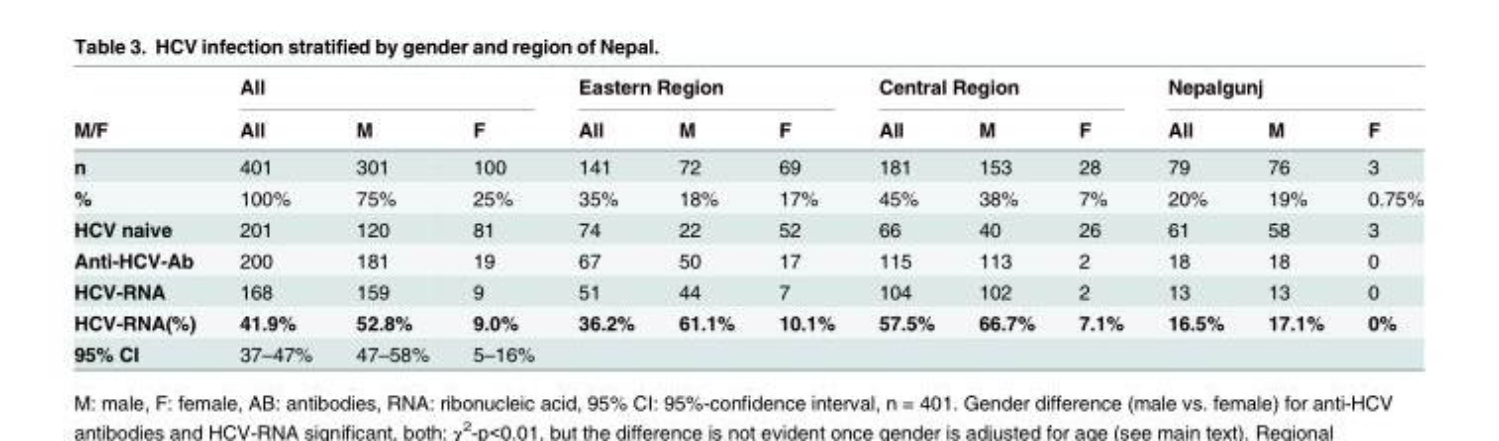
<table><thead><tr><td rowspan="2">M/F</td><td colspan="3">All</td><td colspan="3">Eastern Region</td><td colspan="3">Central Region</td><td colspan="3">Nepalgunj</td></tr><tr><td>All</td><td>M</td><td>F</td><td>All</td><td>M</td><td>F</td><td>All</td><td>M</td><td>F</td><td>All</td><td>M</td><td>F</td></tr></thead><tbody><tr><td>n</td><td>401</td><td>301</td><td>100</td><td>141</td><td>72</td><td>69</td><td>181</td><td>153</td><td>28</td><td>79</td><td>76</td><td>3</td></tr><tr><td>%</td><td>100%</td><td>75%</td><td>25%</td><td>35%</td><td>18%</td><td>17%</td><td>45%</td><td>38%</td><td>7%</td><td>20%</td><td>19%</td><td>0.75%</td></tr><tr><td>HCV naive</td><td>201</td><td>120</td><td>81</td><td>74</td><td>22</td><td>52</td><td>66</td><td>40</td><td>26</td><td>61</td><td>58</td><td>3</td></tr><tr><td>Anti-HCV-Ab</td><td>200</td><td>181</td><td>19</td><td>67</td><td>50</td><td>17</td><td>115</td><td>113</td><td>2</td><td>18</td><td>18</td><td>0</td></tr><tr><td>HCV-RNA</td><td>168</td><td>159</td><td>9</td><td>51</td><td>44</td><td>7</td><td>104</td><td>102</td><td>2</td><td>13</td><td>13</td><td>0</td></tr><tr><td>HCV-RNA(%)</td><td>41.9%</td><td>52.8%</td><td>9.0%</td><td>36.2%</td><td>61.1%</td><td>10.1%</td><td>57.5%</td><td>66.7%</td><td>7.1%</td><td>16.5%</td><td>17.1%</td><td>0%</td></tr><tr><td>95% CI</td><td>37–47%</td><td>47–58%</td><td>5–16%</td><td></td><td></td><td></td><td></td><td></td><td></td><td></td><td></td><td></td></tr></tbody></table>